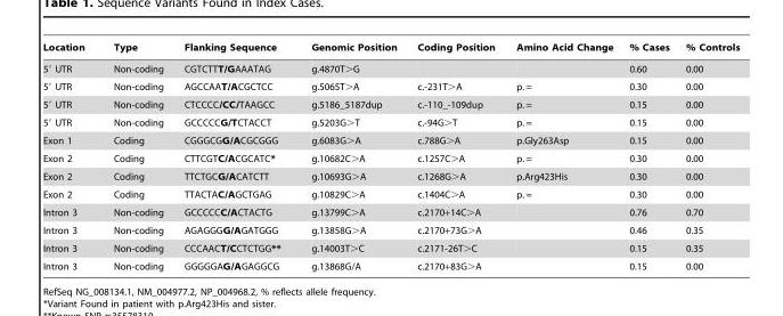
<table><thead><tr><td>Location</td><td>Type</td><td>Flanking Sequence</td><td>Genomic Position</td><td>Coding Position</td><td>Amino Acid Change</td><td>% Cases</td><td>% Controls</td></tr></thead><tbody><tr><td>5′ UTR</td><td>Non-coding</td><td>CGTCTTT/GAAATAG</td><td>g.4870T&gt;G</td><td></td><td></td><td>0.60</td><td>0.00</td></tr><tr><td>5′ UTR</td><td>Non-coding</td><td>AGCCAAT/ACGCTCC</td><td>g.5065T&gt;A</td><td>c.-231T&gt;A</td><td>p. =</td><td>0.30</td><td>0.00</td></tr><tr><td>5′ UTR</td><td>Non-coding</td><td>CTCCCC/CC/TAAGCC</td><td>g.5186_5187dup</td><td>c.-110_-109dup</td><td>p. =</td><td>0.15</td><td>0.00</td></tr><tr><td>5′ UTR</td><td>Non-coding</td><td>GCCCCCG/TCTACCT</td><td>g.5203G&gt;T</td><td>c.-94G&gt;T</td><td>p. =</td><td>0.15</td><td>0.00</td></tr><tr><td>Exon 1</td><td>Coding</td><td>CGGGCGG/ACGCGGG</td><td>g.6083G&gt;A</td><td>c.788G&gt;A</td><td>p.Gly263Asp</td><td>0.15</td><td>0.00</td></tr><tr><td>Exon 2</td><td>Coding</td><td>CTTCGTC/ACGCATC*</td><td>g.10682C&gt;A</td><td>c.1257C&gt;A</td><td>p. =</td><td>0.30</td><td>0.00</td></tr><tr><td>Exon 2</td><td>Coding</td><td>TTCTGCG/ACATCTT</td><td>g.10693G&gt;A</td><td>c.1268G&gt;A</td><td>p.Arg423His</td><td>0.30</td><td>0.00</td></tr><tr><td>Exon 2</td><td>Coding</td><td>TTACTAC/AGCTGAG</td><td>g.10829C&gt;A</td><td>c.1404C&gt;A</td><td>p. =</td><td>0.30</td><td>0.00</td></tr><tr><td>Intron 3</td><td>Non-coding</td><td>GCCCCCC/ACTACTG</td><td>g.13799C&gt;A</td><td>c.2170+14C&gt;A</td><td></td><td>0.76</td><td>0.70</td></tr><tr><td>Intron 3</td><td>Non-coding</td><td>AGAGGGG/AGATGGG</td><td>g.13858G&gt;A</td><td>c.2170+73G&gt;A</td><td></td><td>0.46</td><td>0.35</td></tr><tr><td>Intron 3</td><td>Non-coding</td><td>CCCAACT/CCTCTGG**</td><td>g.14003T&gt;C</td><td>c.2171-26T&gt;C</td><td></td><td>0.15</td><td>0.35</td></tr><tr><td>Intron 3</td><td>Non-coding</td><td>GGGGGAG/AGAGGCG</td><td>g.13868G/A</td><td>c.2170+83G&gt;A</td><td></td><td>0.15</td><td>0.00</td></tr></tbody></table>